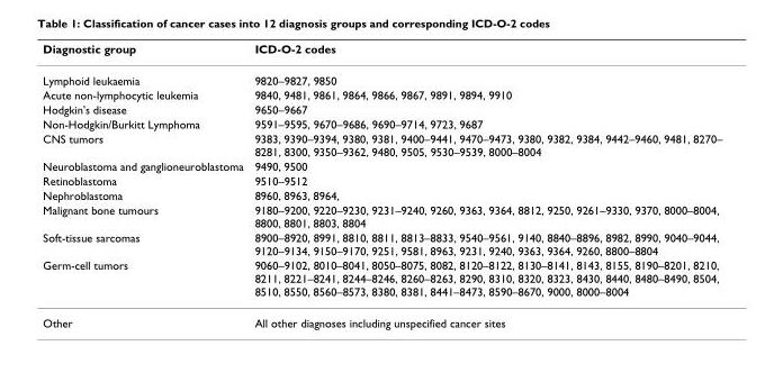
<table><thead><tr><td>Diagnostic group</td><td>ICD-O-2 codes</td></tr></thead><tbody><tr><td>Lymphoid leukaemia</td><td>9820–9827, 9850</td></tr><tr><td>Acute non-lymphocytic leukemia</td><td>9840, 9481, 9861, 9864, 9866, 9867, 9891, 9894, 9910</td></tr><tr><td>Hodgkin&#x27;s disease</td><td>9650–9667</td></tr><tr><td>Non-Hodgkin/Burkitt Lymphoma</td><td>9591–9595, 9670–9686, 9690–9714, 9723, 9687</td></tr><tr><td>CNS tumors</td><td>9383, 9390–9394, 9380, 9381, 9400–9441, 9470–9473, 9380, 9382, 9384, 9442–9460, 9481, 8270– 8281, 8300, 9350–9362, 9480, 9505, 9530–9539, 8000–8004</td></tr><tr><td>Neuroblastoma and ganglioneuroblastoma</td><td>9490, 9500</td></tr><tr><td>Retinoblastoma</td><td>9510–9512</td></tr><tr><td>Nephroblastoma</td><td>8960, 8963, 8964,</td></tr><tr><td>Malignant bone tumours</td><td>9180–9200, 9220–9230, 9231–9240, 9260, 9363, 9364, 8812, 9250, 9261–9330, 9370, 8000–8004, 8800, 8801, 8803, 8804</td></tr><tr><td>Soft-tissue sarcomas</td><td>8900–8920, 8991, 8810, 8811, 8813–8833, 9540–9561, 9140, 8840–8896, 8982, 8990, 9040–9044, 9120–9134, 9150–9170, 9251, 9581, 8963, 9231, 9240, 9363, 9364, 9260, 8800–8804</td></tr><tr><td>Germ-cell tumors</td><td>9060–9102, 8010–8041, 8050–8075, 8082, 8120–8122, 8130–8141, 8143, 8155, 8190–8201, 8210, 8211, 8221–8241, 8244–8246, 8260–8263, 8290, 8310, 8320, 8323, 8430, 8440, 8480–8490, 8504, 8510, 8550, 8560–8573, 8380, 8381, 8441–8473, 8590–8670, 9000, 8000–8004</td></tr><tr><td>Other</td><td>All other diagnoses including unspecified cancer sites</td></tr></tbody></table>